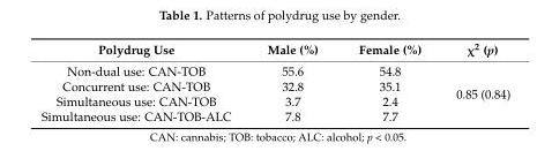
<table><thead><tr><td>Polydrug Use</td><td>Male (%)</td><td>Female (%)</td><td>χ<sup>2</sup> (p)</td></tr></thead><tbody><tr><td>Non-dual use: CAN-TOB</td><td>55.6</td><td>54.8</td><td rowspan="4">0.85 (0.84)</td></tr><tr><td>Concurrent use: CAN-TOB</td><td>32.8</td><td>35.1</td></tr><tr><td>Simultaneous use: CAN-TOB</td><td>3.7</td><td>2.4</td></tr><tr><td>Simultaneous use: CAN-TOB-ALC</td><td>7.8</td><td>7.7</td></tr></tbody></table>